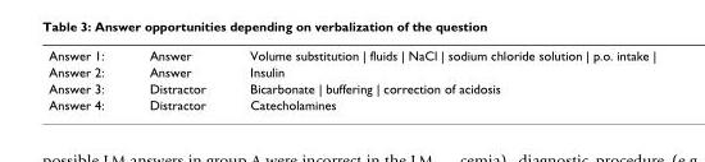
<table><tbody><tr><td>Answer 1:</td><td>Answer</td><td>Volume substitution | fluids | NaCl | sodium chloride solution | p.o. intake |</td></tr><tr><td>Answer 2:</td><td>Answer</td><td>Insulin</td></tr><tr><td>Answer 3:</td><td>Distractor</td><td>Bicarbonate | buffering | correction of acidosis</td></tr><tr><td>Answer 4:</td><td>Distractor</td><td>Catecholamines</td></tr></tbody></table>